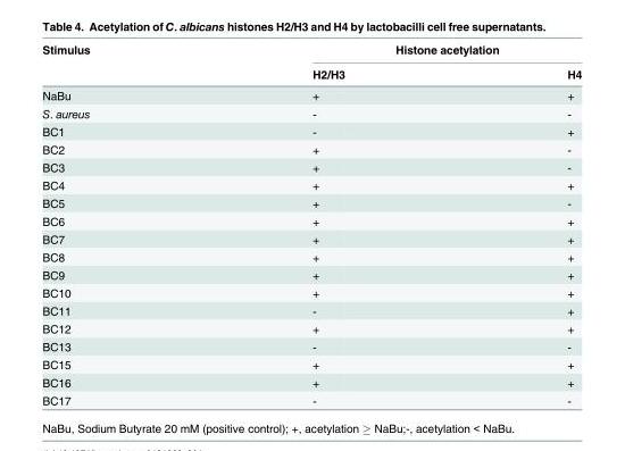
<table><thead><tr><td rowspan="2">Stimulus</td><td colspan="2">Histone acetylation</td></tr><tr><td>H2/H3</td><td>H4</td></tr></thead><tbody><tr><td>NaBu</td><td>+</td><td>+</td></tr><tr><td>S. aureus</td><td>-</td><td>-</td></tr><tr><td>BC1</td><td>-</td><td>+</td></tr><tr><td>BC2</td><td>+</td><td>-</td></tr><tr><td>BC3</td><td>+</td><td>-</td></tr><tr><td>BC4</td><td>+</td><td>+</td></tr><tr><td>BC5</td><td>+</td><td>-</td></tr><tr><td>BC6</td><td>+</td><td>+</td></tr><tr><td>BC7</td><td>+</td><td>+</td></tr><tr><td>BC8</td><td>+</td><td>+</td></tr><tr><td>BC9</td><td>+</td><td>+</td></tr><tr><td>BC10</td><td>+</td><td>+</td></tr><tr><td>BC11</td><td>-</td><td>+</td></tr><tr><td>BC12</td><td>+</td><td>+</td></tr><tr><td>BC13</td><td>-</td><td>-</td></tr><tr><td>BC15</td><td>+</td><td>+</td></tr><tr><td>BC16</td><td>+</td><td>+</td></tr><tr><td>BC17</td><td>-</td><td>-</td></tr></tbody></table>